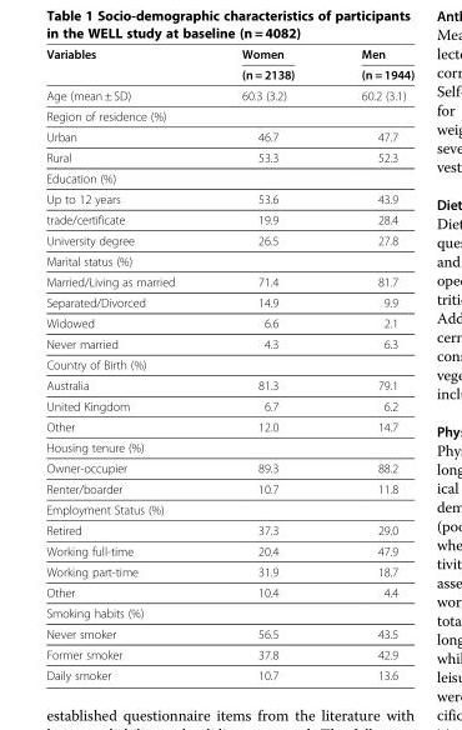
<table><thead><tr><td rowspan="2">Variables</td><td rowspan="2">Women (n = 2138)</td><td rowspan="2">Men (n = 1944)</td></tr><tr></tr></thead><tbody><tr><td>Age (mean ± SD)</td><td>60.3 (3.2)</td><td>60.2 (3.1)</td></tr><tr><td colspan="3">Region of residence (%)</td></tr><tr><td>Urban</td><td>46.7</td><td>47.7</td></tr><tr><td>Rural</td><td>53.3</td><td>52.3</td></tr><tr><td colspan="3">Education (%)</td></tr><tr><td>Up to 12 years</td><td>53.6</td><td>43.9</td></tr><tr><td>trade/certificate</td><td>19.9</td><td>28.4</td></tr><tr><td>University degree</td><td>26.5</td><td>27.8</td></tr><tr><td colspan="3">Marital status (%)</td></tr><tr><td>Married/Living as married</td><td>71.4</td><td>81.7</td></tr><tr><td>Separated/Divorced</td><td>14.9</td><td>9.9</td></tr><tr><td>Widowed</td><td>6.6</td><td>2.1</td></tr><tr><td>Never married</td><td>4.3</td><td>6.3</td></tr><tr><td colspan="3">Country of Birth (%)</td></tr><tr><td>Australia</td><td>81.3</td><td>79.1</td></tr><tr><td>United Kingdom</td><td>6.7</td><td>6.2</td></tr><tr><td>Other</td><td>12.0</td><td>14.7</td></tr><tr><td colspan="3">Housing tenure (%)</td></tr><tr><td>Owner-occupier</td><td>89.3</td><td>88.2</td></tr><tr><td>Renter/boarder</td><td>10.7</td><td>11.8</td></tr><tr><td colspan="3">Employment Status (%)</td></tr><tr><td>Retired</td><td>37.3</td><td>29.0</td></tr><tr><td>Working full-time</td><td>20.4</td><td>47.9</td></tr><tr><td>Working part-time</td><td>31.9</td><td>18.7</td></tr><tr><td>Other</td><td>10.4</td><td>4.4</td></tr><tr><td colspan="3">Smoking habits (%)</td></tr><tr><td>Never smoker</td><td>56.5</td><td>43.5</td></tr><tr><td>Former smoker</td><td>37.8</td><td>42.9</td></tr><tr><td>Daily smoker</td><td>10.7</td><td>13.6</td></tr></tbody></table>